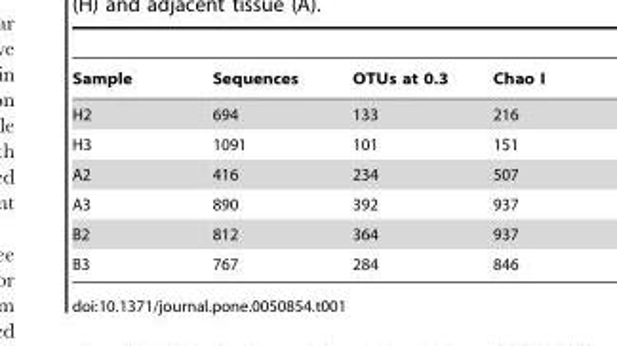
<table><thead><tr><td>Sample</td><td>Sequences</td><td>OTUs at 0.3</td><td>Chao I</td></tr></thead><tbody><tr><td>H2</td><td>694</td><td>133</td><td>216</td></tr><tr><td>H3</td><td>1091</td><td>101</td><td>151</td></tr><tr><td>A2</td><td>416</td><td>234</td><td>507</td></tr><tr><td>A3</td><td>890</td><td>392</td><td>937</td></tr><tr><td>B2</td><td>812</td><td>364</td><td>937</td></tr><tr><td>B3</td><td>767</td><td>284</td><td>846</td></tr></tbody></table>